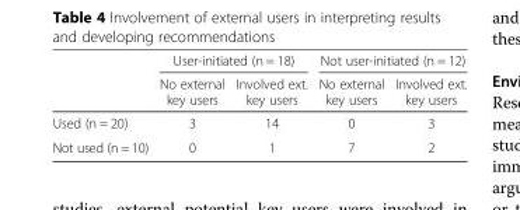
<table><thead><tr><td rowspan="2"></td><td colspan="2">User-initiated (n = 18)</td><td colspan="2">Not user-initiated (n = 12)</td></tr><tr><td>No external key users</td><td>Involved ext. key users</td><td>No external key users</td><td>Involved ext. key users</td></tr></thead><tbody><tr><td>Used (n = 20)</td><td>3</td><td>14</td><td>0</td><td>3</td></tr><tr><td>Not used (n = 10)</td><td>0</td><td>1</td><td>7</td><td>2</td></tr></tbody></table>